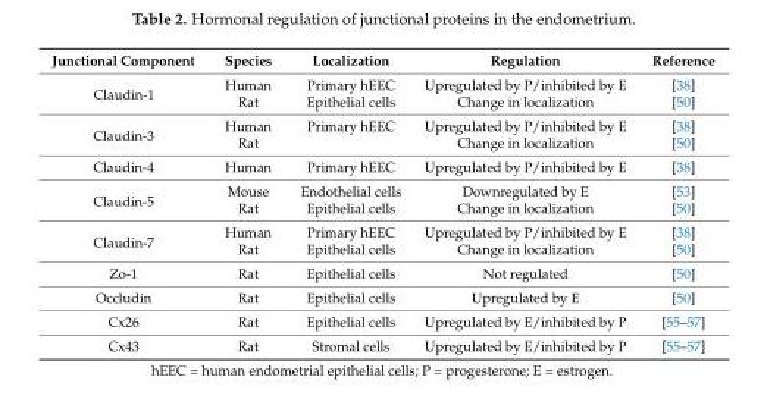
<table><thead><tr><td>Junctional Component</td><td>Species</td><td>Localization</td><td>Regulation</td><td>Reference</td></tr></thead><tbody><tr><td rowspan="2">Claudin-1</td><td>Human</td><td>Primary hEEC</td><td>Upregulated by P/inhibited by E</td><td>[38]</td></tr><tr><td>Rat</td><td>Epithelial cells</td><td>Change in localization</td><td>[50]</td></tr><tr><td rowspan="2">Claudin-3</td><td>Human</td><td>Primary hEEC</td><td>Upregulated by P/inhibited by E</td><td>[38]</td></tr><tr><td>Rat</td><td></td><td>Change in localization</td><td>[50]</td></tr><tr><td>Claudin-4</td><td>Human</td><td>Primary hEEC</td><td>Upregulated by P/inhibited by E</td><td>[38]</td></tr><tr><td rowspan="2">Claudin-5</td><td>Mouse</td><td>Endothelial cells</td><td>Downregulated by E</td><td>[53]</td></tr><tr><td>Rat</td><td>Epithelial cells</td><td>Change in localization</td><td>[50]</td></tr><tr><td rowspan="2">Claudin-7</td><td>Human</td><td>Primary hEEC</td><td>Upregulated by P/inhibited by E</td><td>[38]</td></tr><tr><td>Rat</td><td>Epithelial cells</td><td>Change in localization</td><td>[50]</td></tr><tr><td>Zo-1</td><td>Rat</td><td>Epithelial cells</td><td>Not regulated</td><td>[50]</td></tr><tr><td>Occludin</td><td>Rat</td><td>Epithelial cells</td><td>Upregulated by E</td><td>[50]</td></tr><tr><td>Cx26</td><td>Rat</td><td>Epithelial cells</td><td>Upregulated by E/inhibited by P</td><td>[55–57]</td></tr><tr><td>Cx43</td><td>Rat</td><td>Stromal cells</td><td>Upregulated by E/inhibited by P</td><td>[55–57]</td></tr></tbody></table>